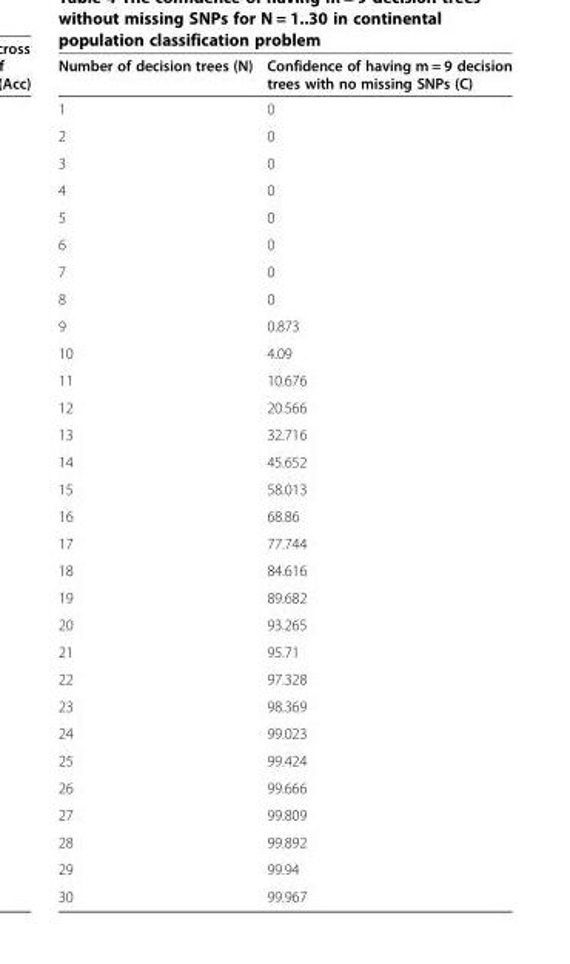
<table><thead><tr><td>Number of decision trees (N)</td><td>Confidence of having m = 9 decision trees with no missing SNPs (C)</td></tr></thead><tbody><tr><td>1</td><td>0</td></tr><tr><td>2</td><td>0</td></tr><tr><td>3</td><td>0</td></tr><tr><td>4</td><td>0</td></tr><tr><td>5</td><td>0</td></tr><tr><td>6</td><td>0</td></tr><tr><td>7</td><td>0</td></tr><tr><td>8</td><td>0</td></tr><tr><td>9</td><td>0.873</td></tr><tr><td>10</td><td>4.09</td></tr><tr><td>11</td><td>10.676</td></tr><tr><td>12</td><td>20.566</td></tr><tr><td>13</td><td>32.716</td></tr><tr><td>14</td><td>45.652</td></tr><tr><td>15</td><td>58.013</td></tr><tr><td>16</td><td>68.86</td></tr><tr><td>17</td><td>77.744</td></tr><tr><td>18</td><td>84.616</td></tr><tr><td>19</td><td>89.682</td></tr><tr><td>20</td><td>93.265</td></tr><tr><td>21</td><td>95.71</td></tr><tr><td>22</td><td>97.328</td></tr><tr><td>23</td><td>98.369</td></tr><tr><td>24</td><td>99.023</td></tr><tr><td>25</td><td>99.424</td></tr><tr><td>26</td><td>99.666</td></tr><tr><td>27</td><td>99.809</td></tr><tr><td>28</td><td>99.892</td></tr><tr><td>29</td><td>99.94</td></tr><tr><td>30</td><td>99.967</td></tr></tbody></table>